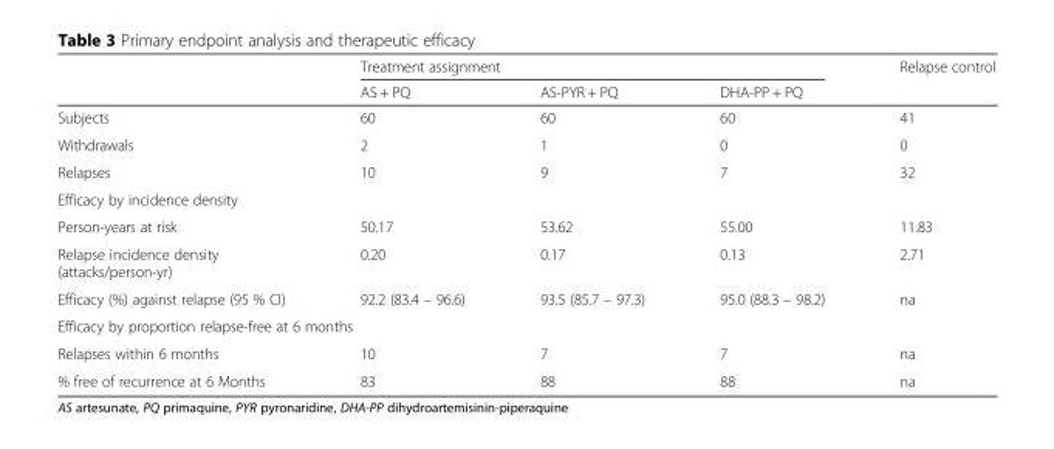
<table><thead><tr><td rowspan="2"></td><td colspan="3">Treatment assignment</td><td rowspan="2">Relapse control</td></tr><tr><td>AS + PQ</td><td>AS-PYR + PQ</td><td>DHA-PP + PQ</td></tr></thead><tbody><tr><td>Subjects</td><td>60</td><td>60</td><td>60</td><td>41</td></tr><tr><td>Withdrawals</td><td>2</td><td>1</td><td>0</td><td>0</td></tr><tr><td>Relapses</td><td>10</td><td>9</td><td>7</td><td>32</td></tr><tr><td colspan="5">Efficacy by incidence density</td></tr><tr><td>Person-years at risk</td><td>50.17</td><td>53.62</td><td>55.00</td><td>11.83</td></tr><tr><td>Relapse incidence density (attacks/person-yr)</td><td>0.20</td><td>0.17</td><td>0.13</td><td>2.71</td></tr><tr><td>Efficacy (%) against relapse (95 % CI)</td><td>92.2 (83.4 – 96.6)</td><td>93.5 (85.7 – 97.3)</td><td>95.0 (88.3 – 98.2)</td><td>na</td></tr><tr><td colspan="5">Efficacy by proportion relapse-free at 6 months</td></tr><tr><td>Relapses within 6 months</td><td>10</td><td>7</td><td>7</td><td>na</td></tr><tr><td>% free of recurrence at 6 Months</td><td>83</td><td>88</td><td>88</td><td>na</td></tr></tbody></table>